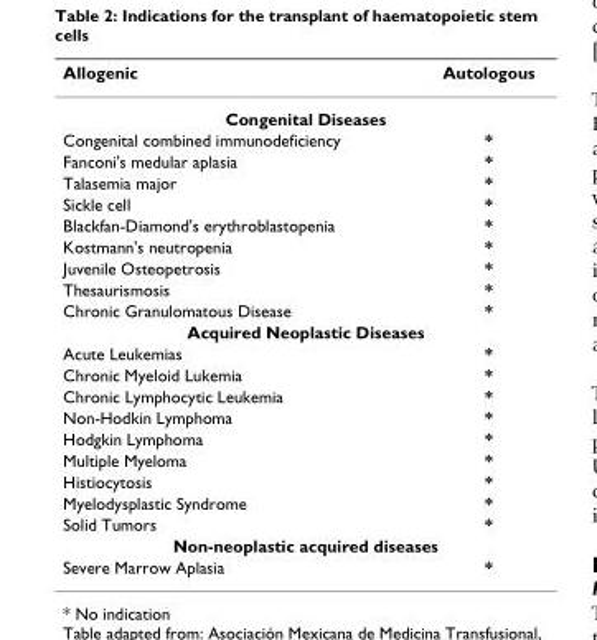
<table><thead><tr><td>Allogenic</td><td>Autologous</td></tr></thead><tbody><tr><td colspan="2">Congenital Diseases</td></tr><tr><td>Congenital combined immunodeficiency</td><td>*</td></tr><tr><td>Fanconi&#x27;s medular aplasia</td><td>*</td></tr><tr><td>Talasemia major</td><td>*</td></tr><tr><td>Sickle cell</td><td>*</td></tr><tr><td>Blackfan-Diamond&#x27;s erythroblastopenia</td><td>*</td></tr><tr><td>Kostmann&#x27;s neutropenia</td><td>*</td></tr><tr><td>Juvenile Osteopetrosis</td><td>*</td></tr><tr><td>Thesaurismosis</td><td>*</td></tr><tr><td>Chronic Granulomatous Disease</td><td>*</td></tr><tr><td colspan="2">Acquired Neoplastic Diseases</td></tr><tr><td>Acute Leukemias</td><td>*</td></tr><tr><td>Chronic Myeloid Lukemia</td><td>*</td></tr><tr><td>Chronic Lymphocytic Leukemia</td><td>*</td></tr><tr><td>Non-Hodkin Lymphoma</td><td>*</td></tr><tr><td>Hodgkin Lymphoma</td><td>*</td></tr><tr><td>Multiple Myeloma</td><td>*</td></tr><tr><td>Histiocytosis</td><td>*</td></tr><tr><td>Myelodysplastic Syndrome</td><td>*</td></tr><tr><td>Solid Tumors</td><td>*</td></tr><tr><td colspan="2">Non-neoplastic acquired diseases</td></tr><tr><td>Severe Marrow Aplasia</td><td>*</td></tr></tbody></table>